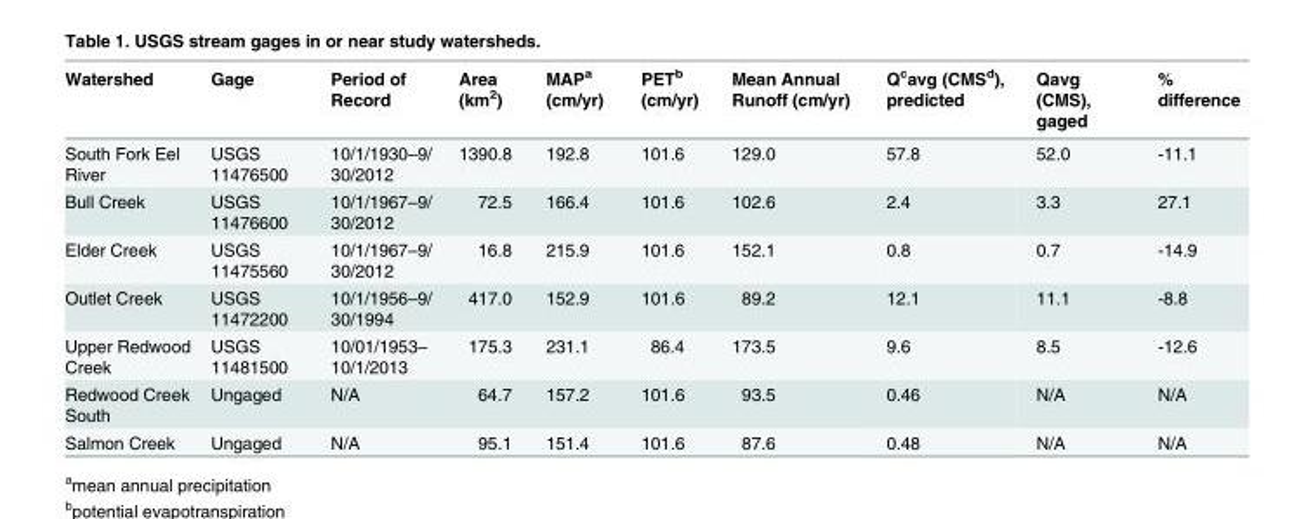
<table><thead><tr><td>Watershed</td><td>Gage</td><td>Period of Record</td><td>Area (km<sup>2</sup>)</td><td>MAP<sup>a</sup> (cm/yr)</td><td>PET<sup>b</sup> (cm/yr)</td><td>Mean Annual Runoff (cm/yr)</td><td>Q<sup>c</sup>avg (CMS<sup>d</sup>), predicted</td><td>Qavg (CMS), gaged</td><td>% difference</td></tr></thead><tbody><tr><td>South Fork Eel River</td><td>USGS 11476500</td><td>10/1/1930–9/ 30/2012</td><td>1390.8</td><td>192.8</td><td>101.6</td><td>129.0</td><td>57.8</td><td>52.0</td><td>-11.1</td></tr><tr><td>Bull Creek</td><td>USGS 11476600</td><td>10/1/1967–9/ 30/2012</td><td>72.5</td><td>166.4</td><td>101.6</td><td>102.6</td><td>2.4</td><td>3.3</td><td>27.1</td></tr><tr><td>Elder Creek</td><td>USGS 11475560</td><td>10/1/1967–9/ 30/2012</td><td>16.8</td><td>215.9</td><td>101.6</td><td>152.1</td><td>0.8</td><td>0.7</td><td>-14.9</td></tr><tr><td>Outlet Creek</td><td>USGS 11472200</td><td>10/1/1956–9/ 30/1994</td><td>417.0</td><td>152.9</td><td>101.6</td><td>89.2</td><td>12.1</td><td>11.1</td><td>-8.8</td></tr><tr><td>Upper Redwood Creek</td><td>USGS 11481500</td><td>10/01/1953– 10/1/2013</td><td>175.3</td><td>231.1</td><td>86.4</td><td>173.5</td><td>9.6</td><td>8.5</td><td>-12.6</td></tr><tr><td>Redwood Creek South</td><td>Ungaged</td><td>N/A</td><td>64.7</td><td>157.2</td><td>101.6</td><td>93.5</td><td>0.46</td><td>N/A</td><td>N/A</td></tr><tr><td>Salmon Creek</td><td>Ungaged</td><td>N/A</td><td>95.1</td><td>151.4</td><td>101.6</td><td>87.6</td><td>0.48</td><td>N/A</td><td>N/A</td></tr></tbody></table>